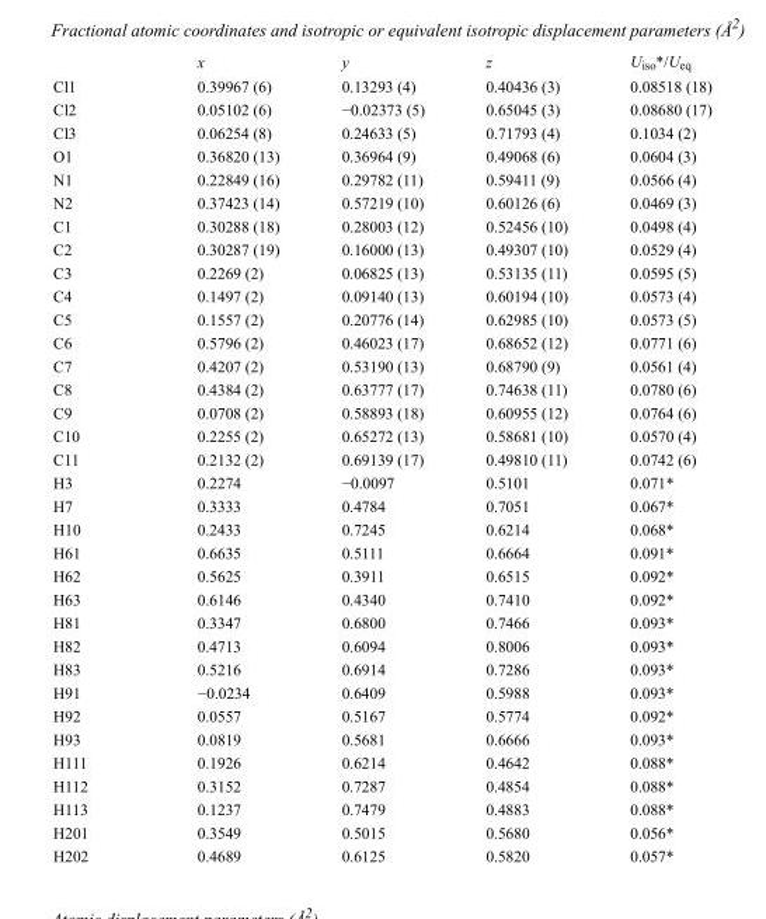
<table><thead><tr><td></td><td>x</td><td>y</td><td>z</td><td>U<sub>iso</sub>*/U<sub>eq</sub></td></tr></thead><tbody><tr><td>Cl1</td><td>0.39967 (6)</td><td>0.13293 (4)</td><td>0.40436 (3)</td><td>0.08518 (18)</td></tr><tr><td>Cl2</td><td>0.05102 (6)</td><td>−0.02373 (5)</td><td>0.65045 (3)</td><td>0.08680 (17)</td></tr><tr><td>Cl3</td><td>0.06254 (8)</td><td>0.24633 (5)</td><td>0.71793 (4)</td><td>0.1034 (2)</td></tr><tr><td>O1</td><td>0.36820 (13)</td><td>0.36964 (9)</td><td>0.49068 (6)</td><td>0.0604 (3)</td></tr><tr><td>N1</td><td>0.22849 (16)</td><td>0.29782 (11)</td><td>0.59411 (9)</td><td>0.0566 (4)</td></tr><tr><td>N2</td><td>0.37423 (14)</td><td>0.57219 (10)</td><td>0.60126 (6)</td><td>0.0469 (3)</td></tr><tr><td>C1</td><td>0.30288 (18)</td><td>0.28003 (12)</td><td>0.52456 (10)</td><td>0.0498 (4)</td></tr><tr><td>C2</td><td>0.30287 (19)</td><td>0.16000 (13)</td><td>0.49307 (10)</td><td>0.0529 (4)</td></tr><tr><td>C3</td><td>0.2269 (2)</td><td>0.06825 (13)</td><td>0.53135 (11)</td><td>0.0595 (5)</td></tr><tr><td>C4</td><td>0.1497 (2)</td><td>0.09140 (13)</td><td>0.60194 (10)</td><td>0.0573 (4)</td></tr><tr><td>C5</td><td>0.1557 (2)</td><td>0.20776 (14)</td><td>0.62985 (10)</td><td>0.0573 (5)</td></tr><tr><td>C6</td><td>0.5796 (2)</td><td>0.46023 (17)</td><td>0.68652 (12)</td><td>0.0771 (6)</td></tr><tr><td>C7</td><td>0.4207 (2)</td><td>0.53190 (13)</td><td>0.68790 (9)</td><td>0.0561 (4)</td></tr><tr><td>C8</td><td>0.4384 (2)</td><td>0.63777 (17)</td><td>0.74638 (11)</td><td>0.0780 (6)</td></tr><tr><td>C9</td><td>0.0708 (2)</td><td>0.58893 (18)</td><td>0.60955 (12)</td><td>0.0764 (6)</td></tr><tr><td>C10</td><td>0.2255 (2)</td><td>0.65272 (13)</td><td>0.58681 (10)</td><td>0.0570 (4)</td></tr><tr><td>C11</td><td>0.2132 (2)</td><td>0.69139 (17)</td><td>0.49810 (11)</td><td>0.0742 (6)</td></tr><tr><td>H3</td><td>0.2274</td><td>−0.0097</td><td>0.5101</td><td>0.071*</td></tr><tr><td>H7</td><td>0.3333</td><td>0.4784</td><td>0.7051</td><td>0.067*</td></tr><tr><td>H10</td><td>0.2433</td><td>0.7245</td><td>0.6214</td><td>0.068*</td></tr><tr><td>H61</td><td>0.6635</td><td>0.5111</td><td>0.6664</td><td>0.091*</td></tr><tr><td>H62</td><td>0.5625</td><td>0.3911</td><td>0.6515</td><td>0.092*</td></tr><tr><td>H63</td><td>0.6146</td><td>0.4340</td><td>0.7410</td><td>0.092*</td></tr><tr><td>H81</td><td>0.3347</td><td>0.6800</td><td>0.7466</td><td>0.093*</td></tr><tr><td>H82</td><td>0.4713</td><td>0.6094</td><td>0.8006</td><td>0.093*</td></tr><tr><td>H83</td><td>0.5216</td><td>0.6914</td><td>0.7286</td><td>0.093*</td></tr><tr><td>H91</td><td>−0.0234</td><td>0.6409</td><td>0.5988</td><td>0.093*</td></tr><tr><td>H92</td><td>0.0557</td><td>0.5167</td><td>0.5774</td><td>0.092*</td></tr><tr><td>H93</td><td>0.0819</td><td>0.5681</td><td>0.6666</td><td>0.093*</td></tr><tr><td>H111</td><td>0.1926</td><td>0.6214</td><td>0.4642</td><td>0.088*</td></tr><tr><td>H112</td><td>0.3152</td><td>0.7287</td><td>0.4854</td><td>0.088*</td></tr><tr><td>H113</td><td>0.1237</td><td>0.7479</td><td>0.4883</td><td>0.088*</td></tr><tr><td>H201</td><td>0.3549</td><td>0.5015</td><td>0.5680</td><td>0.056*</td></tr><tr><td>H202</td><td>0.4689</td><td>0.6125</td><td>0.5820</td><td>0.057*</td></tr></tbody></table>